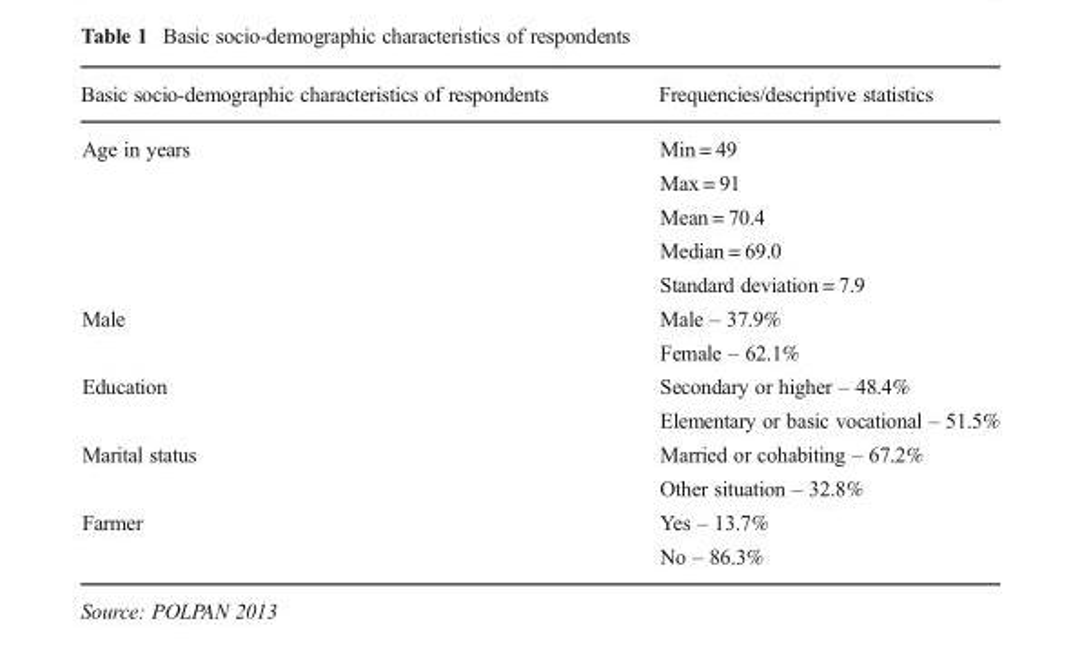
<table><thead><tr><td>Basic socio-demographic characteristics of respondents</td><td>Frequencies/descriptive statistics</td></tr></thead><tbody><tr><td rowspan="5">Age in years</td><td>Min = 49</td></tr><tr><td>Max = 91</td></tr><tr><td>Mean = 70.4</td></tr><tr><td>Median = 69.0</td></tr><tr><td>Standard deviation = 7.9</td></tr><tr><td rowspan="2">Male</td><td>Male – 37.9%</td></tr><tr><td>Female – 62.1%</td></tr><tr><td rowspan="2">Education</td><td>Secondary or higher – 48.4%</td></tr><tr><td>Elementary or basic vocational – 51.5%</td></tr><tr><td rowspan="2">Marital status</td><td>Married or cohabiting – 67.2%</td></tr><tr><td>Other situation – 32.8%</td></tr><tr><td rowspan="2">Farmer</td><td>Yes – 13.7%</td></tr><tr><td>No – 86.3%</td></tr></tbody></table>